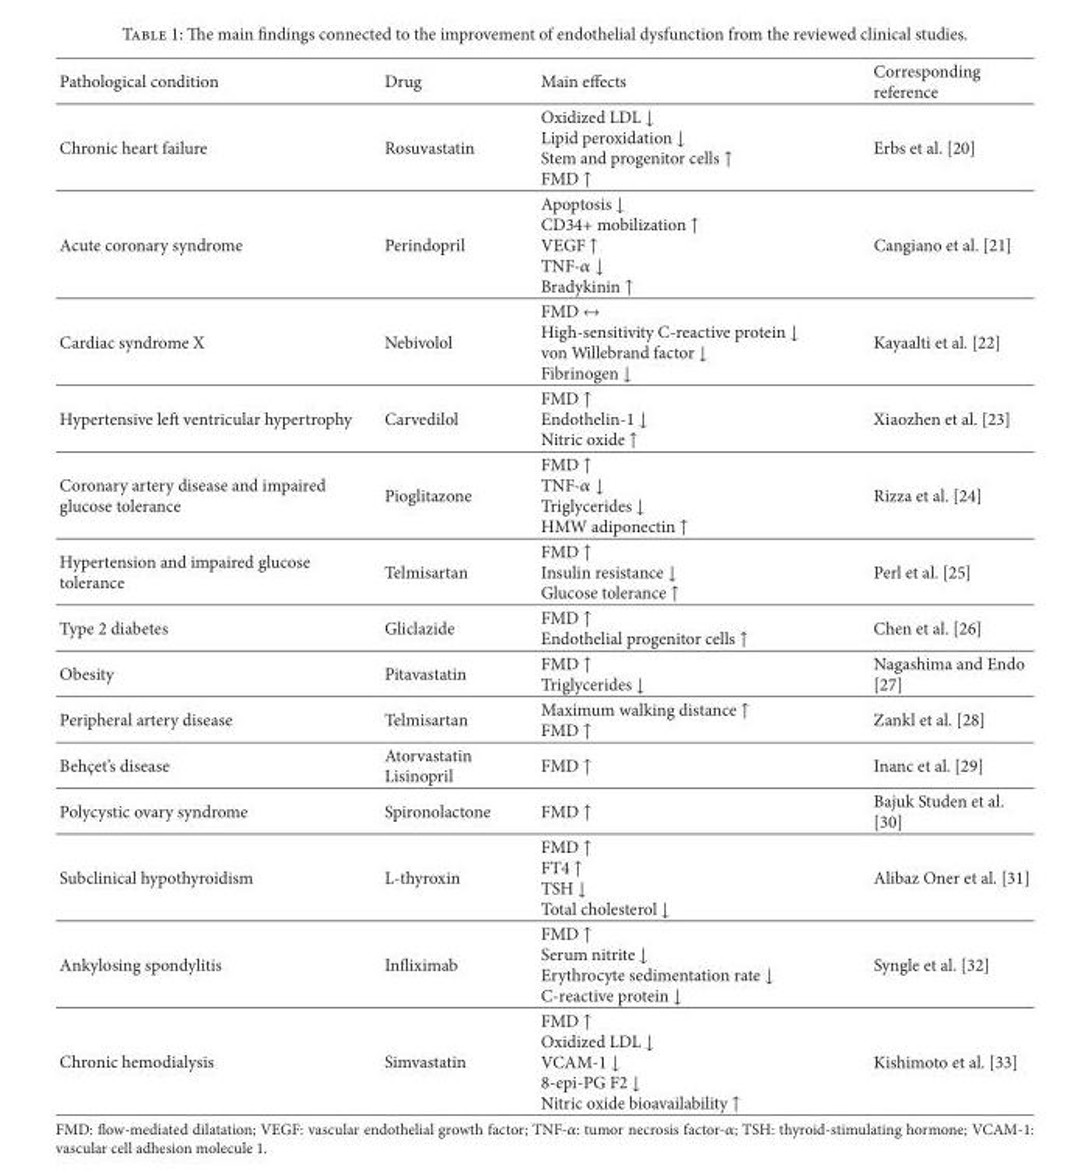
<table><thead><tr><td>Pathological condition</td><td>Drug</td><td>Main effects</td><td>Corresponding reference</td></tr></thead><tbody><tr><td>Chronic heart failure</td><td>Rosuvastatin</td><td>Oxidized LDL ↓ Lipid peroxidation ↓ Stem and progenitor cells ↑ FMD ↑</td><td>Erbs et al. [20]</td></tr><tr><td>Acute coronary syndrome</td><td>Perindopril</td><td>Apoptosis ↓ CD34+ mobilization ↑ VEGF ↑ TNF-𝛼𝛼 ↓ Bradykinin ↑</td><td>Cangiano et al. [21]</td></tr><tr><td>Cardiac syndrome X</td><td>Nebivolol</td><td>FMD ↔ High-sensitivity C-reactive protein ↓ von Willebrand factor ↓ Fibrinogen ↓</td><td>Kayaalti et al. [22]</td></tr><tr><td>Hypertensive le ventricular hypertrophy</td><td>Carvedilol</td><td>FMD ↑ Endothelin-1 ↓ Nitric oxide ↑</td><td>Xiaozhen et al. [23]</td></tr><tr><td>Coronary artery disease and impaired glucose tolerance</td><td>Pioglitazone</td><td>FMD ↑ TNF-𝛼𝛼 ↓ Triglycerides ↓ HMW adiponectin ↑</td><td>Rizza et al. [24]</td></tr><tr><td>Hypertension and impaired glucose tolerance</td><td>Telmisartan</td><td>FMD ↑ Insulin resistance ↓ Glucose tolerance ↑</td><td>Perl et al. [25]</td></tr><tr><td>Type 2 diabetes</td><td>Gliclazide</td><td>FMD ↑ Endothelial progenitor cells ↑</td><td>Chen et al. [26]</td></tr><tr><td>Obesity</td><td>Pitavastatin</td><td>FMD ↑ Triglycerides ↓</td><td>Nagashima and Endo [27]</td></tr><tr><td>Peripheral artery disease</td><td>Telmisartan</td><td>Maximum walking distance ↑ FMD ↑</td><td>Zankl et al. [28]</td></tr><tr><td>Behçet’s disease</td><td>Atorvastatin Lisinopril</td><td>FMD ↑</td><td>Inanc et al. [29]</td></tr><tr><td>Polycystic ovary syndrome</td><td>Spironolactone</td><td>FMD ↑</td><td>Bajuk Studen et al. [30]</td></tr><tr><td>Subclinical hypothyroidism</td><td>L-thyroxin</td><td>FMD ↑ FT4 ↑ TSH ↓ Total cholesterol ↓</td><td>Alibaz Oner et al. [31]</td></tr><tr><td>Ankylosing spondylitis</td><td>In�iximab</td><td>FMD ↑ Serum nitrite ↓ Erythrocyte sedimentation rate ↓ C-reactive protein ↓</td><td>Syngle et al. [32]</td></tr><tr><td>Chronic hemodialysis</td><td>Simvastatin</td><td>FMD ↑ Oxidized LDL ↓ VCAM-1 ↓ 8-epi-PG F2 ↓ Nitric oxide bioavailability ↑</td><td>Kishimoto et al. [33]</td></tr></tbody></table>